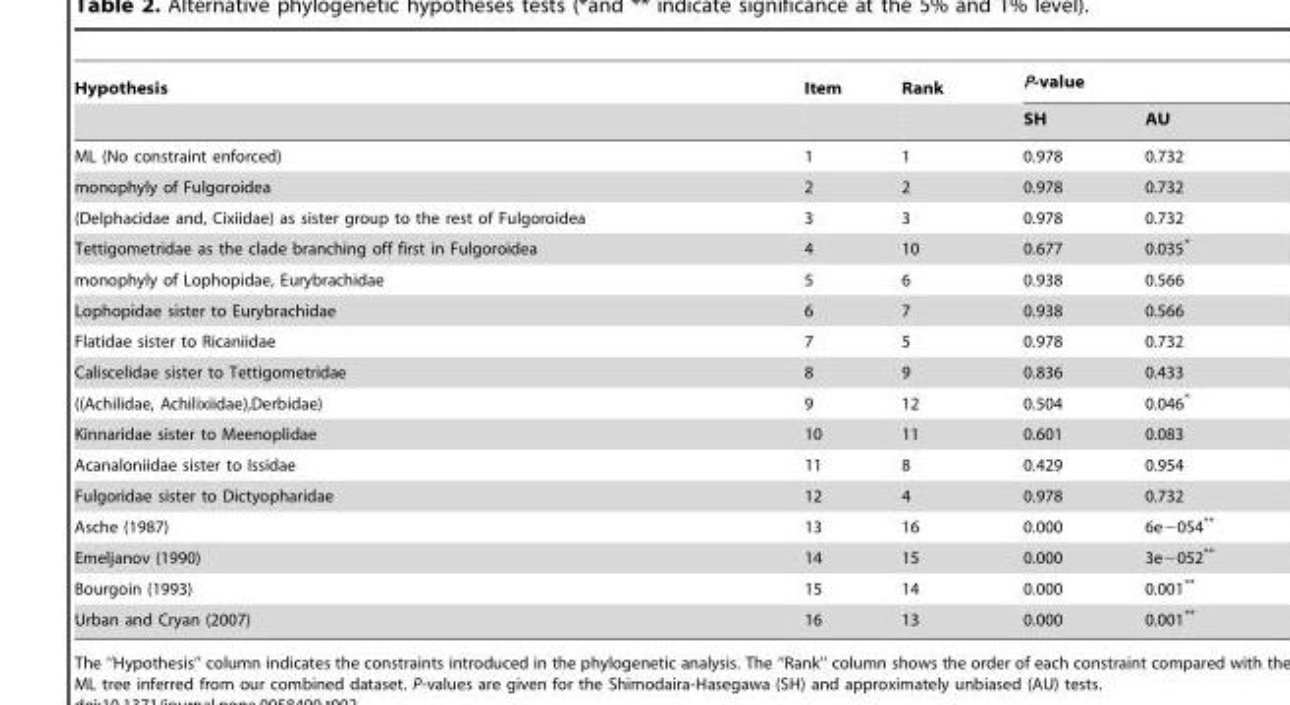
<table><thead><tr><td rowspan="2">Hypothesis</td><td rowspan="2">Item</td><td rowspan="2">Rank</td><td colspan="2">P-value</td></tr><tr><td>SH</td><td>AU</td></tr></thead><tbody><tr><td>ML (No constraint enforced)</td><td>1</td><td>1</td><td>0.978</td><td>0.732</td></tr><tr><td>monophyly of Fulgoroidea</td><td>2</td><td>2</td><td>0.978</td><td>0.732</td></tr><tr><td>(Delphacidae and, Cixiidae) as sister group to the rest of Fulgoroidea</td><td>3</td><td>3</td><td>0.978</td><td>0.732</td></tr><tr><td>Tettigometridae as the clade branching off first in Fulgoroidea</td><td>4</td><td>10</td><td>0.677</td><td>0.035*</td></tr><tr><td>monophyly of Lophopidae, Eurybrachidae</td><td>5</td><td>6</td><td>0.938</td><td>0.566</td></tr><tr><td>Lophopidae sister to Eurybrachidae</td><td>6</td><td>7</td><td>0.938</td><td>0.566</td></tr><tr><td>Flatidae sister to Ricaniidae</td><td>7</td><td>5</td><td>0.978</td><td>0.732</td></tr><tr><td>Caliscelidae sister to Tettigometridae</td><td>8</td><td>9</td><td>0.836</td><td>0.433</td></tr><tr><td>((Achilidae, Achilixiidae),Derbidae)</td><td>9</td><td>12</td><td>0.504</td><td>0.046*</td></tr><tr><td>Kinnaridae sister to Meenoplidae</td><td>10</td><td>11</td><td>0.601</td><td>0.083</td></tr><tr><td>Acanaloniidae sister to Issidae</td><td>11</td><td>8</td><td>0.429</td><td>0.954</td></tr><tr><td>Fulgoridae sister to Dictyopharidae</td><td>12</td><td>4</td><td>0.978</td><td>0.732</td></tr><tr><td>Asche (1987)</td><td>13</td><td>16</td><td>0.000</td><td>6e−054**</td></tr><tr><td>Emeljanov (1990)</td><td>14</td><td>15</td><td>0.000</td><td>3e−052**</td></tr><tr><td>Bourgoin (1993)</td><td>15</td><td>14</td><td>0.000</td><td>0.001**</td></tr><tr><td>Urban and Cryan (2007)</td><td>16</td><td>13</td><td>0.000</td><td>0.001**</td></tr></tbody></table>